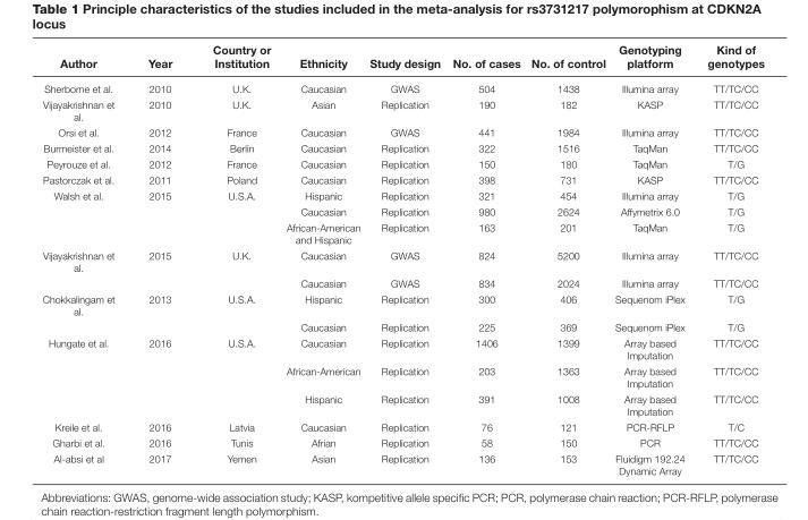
<table><thead><tr><td>Author</td><td>Year</td><td>Country or Institution</td><td>Ethnicity</td><td>Study design</td><td>No. of cases</td><td>No. of control</td><td>Genotyping platform</td><td>Kind of genotypes</td></tr></thead><tbody><tr><td>Sherborne et al.</td><td>2010</td><td>U.K.</td><td>Caucasian</td><td>GWAS</td><td>504</td><td>1438</td><td>Illumina array</td><td>TT/TC/CC</td></tr><tr><td>Vijayakrishnan et al.</td><td>2010</td><td>U.K.</td><td>Asian</td><td>Replication</td><td>190</td><td>182</td><td>KASP</td><td>TT/TC/CC</td></tr><tr><td>Orsi et al.</td><td>2012</td><td>France</td><td>Caucasian</td><td>GWAS</td><td>441</td><td>1984</td><td>Illumina array</td><td>TT/TC/CC</td></tr><tr><td>Burmeister et al.</td><td>2014</td><td>Berlin</td><td>Caucasian</td><td>Replication</td><td>322</td><td>1516</td><td>TaqMan</td><td>TT/TC/CC</td></tr><tr><td>Peyrouze et al.</td><td>2012</td><td>France</td><td>Caucasian</td><td>Replication</td><td>150</td><td>180</td><td>TaqMan</td><td>T/G</td></tr><tr><td>Pastorczak et al.</td><td>2011</td><td>Poland</td><td>Caucasian</td><td>Replication</td><td>398</td><td>731</td><td>KASP</td><td>TT/TC/CC</td></tr><tr><td rowspan="3">Walsh et al.</td><td>2015</td><td>U.S.A.</td><td>Hispanic</td><td>Replication</td><td>321</td><td>454</td><td>Illumina array</td><td>T/G</td></tr><tr><td></td><td></td><td>Caucasian</td><td>Replication</td><td>980</td><td>2624</td><td>Affymetrix 6.0</td><td>T/G</td></tr><tr><td></td><td></td><td>African-American and Hispanic</td><td>Replication</td><td>163</td><td>201</td><td>TaqMan</td><td>T/G</td></tr><tr><td rowspan="2">Vijayakrishnan et al.</td><td>2015</td><td>U.K.</td><td>Caucasian</td><td>GWAS</td><td>824</td><td>5200</td><td>Illumina array</td><td>TT/TC/CC</td></tr><tr><td></td><td></td><td>Caucasian</td><td>GWAS</td><td>834</td><td>2024</td><td>Illumina array</td><td>TT/TC/CC</td></tr><tr><td rowspan="2">Chokkalingam et al.</td><td>2013</td><td>U.S.A.</td><td>Hispanic</td><td>Replication</td><td>300</td><td>406</td><td>Sequenom iPlex</td><td>T/G</td></tr><tr><td></td><td></td><td>Caucasian</td><td>Replication</td><td>225</td><td>369</td><td>Sequenom iPlex</td><td>T/G</td></tr><tr><td rowspan="3">Hungate et al.</td><td>2016</td><td>U.S.A.</td><td>Caucasian</td><td>Replication</td><td>1406</td><td>1399</td><td>Array based Imputation</td><td>TT/TC/CC</td></tr><tr><td></td><td></td><td>African-American</td><td>Replication</td><td>203</td><td>1363</td><td>Array based Imputation</td><td>TT/TC/CC</td></tr><tr><td></td><td></td><td>Hispanic</td><td>Replication</td><td>391</td><td>1008</td><td>Array based Imputation</td><td>TT/TC/CC</td></tr><tr><td>Kreile et al.</td><td>2016</td><td>Latvia</td><td>Caucasian</td><td>Replication</td><td>76</td><td>121</td><td>PCR-RFLP</td><td>T/C</td></tr><tr><td>Gharbi et al.</td><td>2016</td><td>Tunis</td><td>Afrian</td><td>Replication</td><td>58</td><td>150</td><td>PCR</td><td>TT/TC/CC</td></tr><tr><td>Al-absi et al</td><td>2017</td><td>Yemen</td><td>Asian</td><td>Replication</td><td>136</td><td>153</td><td>Fluidigm 192.24 Dynamic Array</td><td>TT/TC/CC</td></tr></tbody></table>